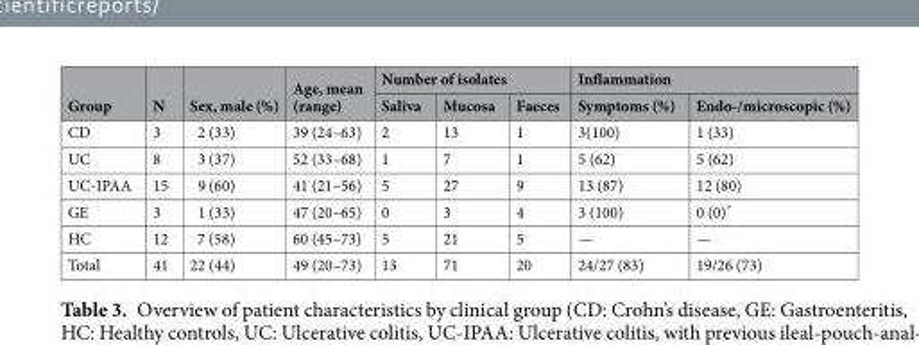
<table><thead><tr><td rowspan="2">Group</td><td rowspan="2">N</td><td rowspan="2">Sex, male (%)</td><td rowspan="2">Age, mean (range)</td><td colspan="3">Number of isolates</td><td colspan="2">Inflammation</td></tr><tr><td>Saliva</td><td>Mucosa</td><td>Faeces</td><td>Symptoms (%)</td><td>Endo-/microscopic (%)</td></tr></thead><tbody><tr><td>CD</td><td>3</td><td>2 (33)</td><td>39 (24–63)</td><td>2</td><td>13</td><td>1</td><td>3(100)</td><td>1 (33)</td></tr><tr><td>UC</td><td>8</td><td>3 (37)</td><td>52 (33–68)</td><td>1</td><td>7</td><td>1</td><td>5 (62)</td><td>5 (62)</td></tr><tr><td>UC-IPAA</td><td>15</td><td>9 (60)</td><td>41 (21–56)</td><td>5</td><td>27</td><td>9</td><td>13 (87)</td><td>12 (80)</td></tr><tr><td>GE</td><td>3</td><td>1 (33)</td><td>47 (20–65)</td><td>0</td><td>3</td><td>4</td><td>3 (100)</td><td>0 (0)*</td></tr><tr><td>HC</td><td>12</td><td>7 (58)</td><td>60 (45–73)</td><td>5</td><td>21</td><td>5</td><td>—</td><td>—</td></tr><tr><td>Total</td><td>41</td><td>22 (44)</td><td>49 (20–73)</td><td>13</td><td>71</td><td>20</td><td>24/27 (83)</td><td>19/26 (73)</td></tr></tbody></table>